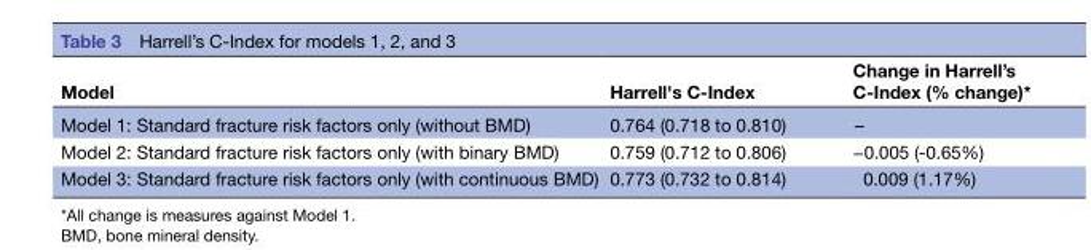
<table><thead><tr><td>Model</td><td>Harrell&#x27;s C-Index</td><td>Change in Harrell’s C-Index (% change)*</td></tr></thead><tbody><tr><td>Model 1: Standard fracture risk factors only (without BMD)</td><td>0.764 (0.718 to 0.810)</td><td>–</td></tr><tr><td>Model 2: Standard fracture risk factors only (with binary BMD)</td><td>0.759 (0.712 to 0.806)</td><td>−0.005 (-0.65%)</td></tr><tr><td>Model 3: Standard fracture risk factors only (with continuous BMD)</td><td>0.773 (0.732 to 0.814)</td><td>0.009 (1.17%)</td></tr></tbody></table>